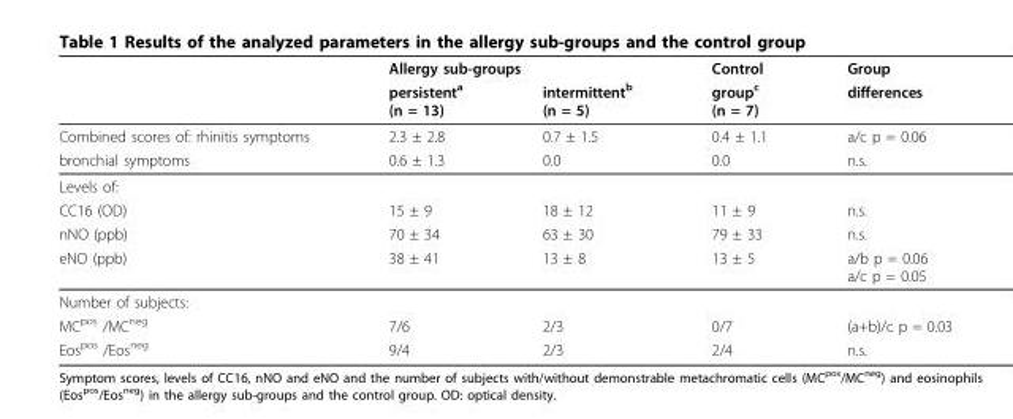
<table><thead><tr><td rowspan="2"></td><td colspan="2">Allergy sub-groups</td><td rowspan="2">Control groupc (n = 7)</td><td rowspan="2">Group differences</td></tr><tr><td>persistenta (n = 13)</td><td>intermittentb (n = 5)</td></tr></thead><tbody><tr><td>Combined scores of: rhinitis symptoms</td><td>2.3 ± 2.8</td><td>0.7 ± 1.5</td><td>0.4 ± 1.1</td><td>a/c p = 0.06</td></tr><tr><td>bronchial symptoms</td><td>0.6 ± 1.3</td><td>0.0</td><td>0.0</td><td>n.s.</td></tr><tr><td colspan="5">Levels of:</td></tr><tr><td>CC16 (OD)</td><td>15 ± 9</td><td>18 ± 12</td><td>11 ± 9</td><td>n.s.</td></tr><tr><td>nNO (ppb)</td><td>70 ± 34</td><td>63 ± 30</td><td>79 ± 33</td><td>n.s.</td></tr><tr><td>eNO (ppb)</td><td>38 ± 41</td><td>13 ± 8</td><td>13 ± 5</td><td>a/b p = 0.06 a/c p = 0.05</td></tr><tr><td colspan="5">Number of subjects:</td></tr><tr><td>MC<sup>pos</sup> /MC<sup>neg</sup></td><td>7/6</td><td>2/3</td><td>0/7</td><td>(a+b)/c p = 0.03</td></tr><tr><td>Eos<sup>pos</sup> /Eos<sup>neg</sup></td><td>9/4</td><td>2/3</td><td>2/4</td><td>n.s.</td></tr></tbody></table>